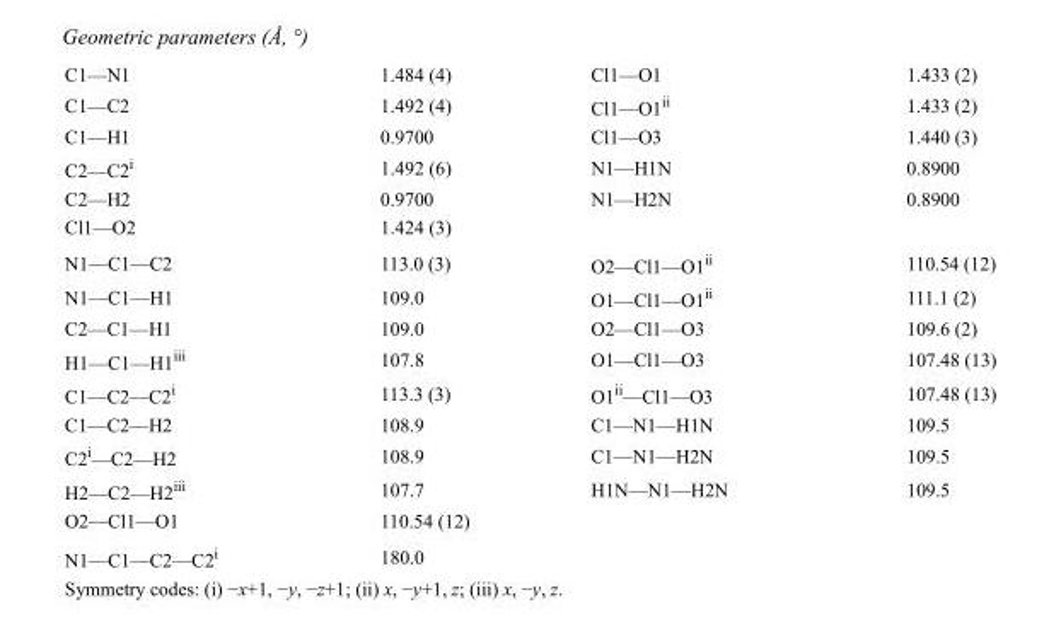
<table><tbody><tr><td>C1—N1</td><td>1.484 (4)</td><td>Cl1—O1</td><td>1.433 (2)</td></tr><tr><td>C1—C2</td><td>1.492 (4)</td><td>Cl1—O1<sup>ii</sup></td><td>1.433 (2)</td></tr><tr><td>C1—H1</td><td>0.9700</td><td>Cl1—O3</td><td>1.440 (3)</td></tr><tr><td>C2—C2<sup>i</sup></td><td>1.492 (6)</td><td>N1—H1N</td><td>0.8900</td></tr><tr><td>C2—H2</td><td>0.9700</td><td>N1—H2N</td><td>0.8900</td></tr><tr><td>Cl1—O2</td><td>1.424 (3)</td><td></td><td></td></tr><tr><td>N1—C1—C2</td><td>113.0 (3)</td><td>O2—Cl1—O1<sup>ii</sup></td><td>110.54 (12)</td></tr><tr><td>N1—C1—H1</td><td>109.0</td><td>O1—Cl1—O1<sup>ii</sup></td><td>111.1 (2)</td></tr><tr><td>C2—C1—H1</td><td>109.0</td><td>O2—Cl1—O3</td><td>109.6 (2)</td></tr><tr><td>H1—C1—H1<sup>iii</sup></td><td>107.8</td><td>O1—Cl1—O3</td><td>107.48 (13)</td></tr><tr><td>C1—C2—C2<sup>i</sup></td><td>113.3 (3)</td><td>O1<sup>ii</sup>—Cl1—O3</td><td>107.48 (13)</td></tr><tr><td>C1—C2—H2</td><td>108.9</td><td>C1—N1—H1N</td><td>109.5</td></tr><tr><td>C2<sup>i</sup>—C2—H2</td><td>108.9</td><td>C1—N1—H2N</td><td>109.5</td></tr><tr><td>H2—C2—H2<sup>iii</sup></td><td>107.7</td><td>H1N—N1—H2N</td><td>109.5</td></tr><tr><td>O2—Cl1—O1</td><td>110.54 (12)</td><td></td><td></td></tr><tr><td>N1—C1—C2—C2<sup>i</sup></td><td>180.0</td><td></td><td></td></tr></tbody></table>